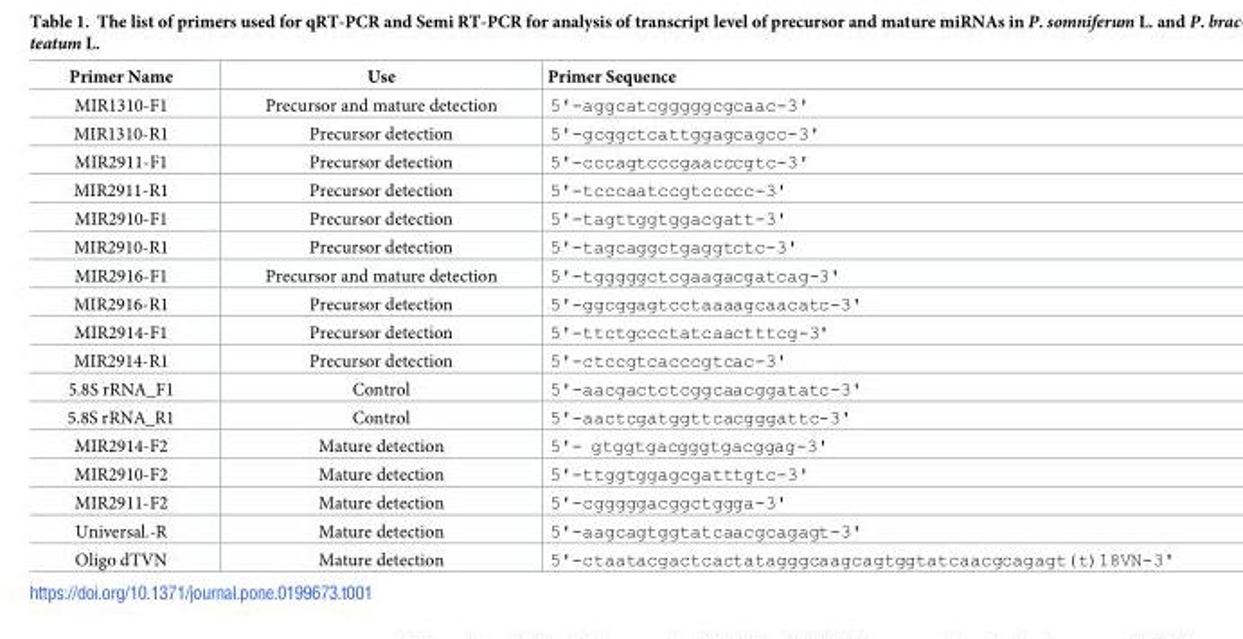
<table><thead><tr><td>Primer Name</td><td>Use</td><td>Primer Sequence</td></tr></thead><tbody><tr><td>MIR1310-F1</td><td>Precursor and mature detection</td><td>5&#x27;-aggcatcgggggcgcaac-3&#x27;</td></tr><tr><td>MIR1310-R1</td><td>Precursor detection</td><td>5&#x27;-gcggctcattggagcagcc-3&#x27;</td></tr><tr><td>MIR2911-F1</td><td>Precursor detection</td><td>5&#x27;-cccagtcccgaacccgtc-3&#x27;</td></tr><tr><td>MIR2911-R1</td><td>Precursor detection</td><td>5&#x27;-tcccaatccgtccccc-3&#x27;</td></tr><tr><td>MIR2910-F1</td><td>Precursor detection</td><td>5&#x27;-tagttggtggacgatt-3&#x27;</td></tr><tr><td>MIR2910-R1</td><td>Precursor detection</td><td>5&#x27;-tagcaggctgaggtctc-3&#x27;</td></tr><tr><td>MIR2916-F1</td><td>Precursor and mature detection</td><td>5&#x27;-tgggggctcgaagacgatcag-3&#x27;</td></tr><tr><td>MIR2916-R1</td><td>Precursor detection</td><td>5&#x27;-ggcggagtcctaaaagcaacatc-3&#x27;</td></tr><tr><td>MIR2914-F1</td><td>Precursor detection</td><td>5&#x27;-ttctgccctatcaactttcg-3&#x27;</td></tr><tr><td>MIR2914-R1</td><td>Precursor detection</td><td>5&#x27;-ctccgtcacccgtcac-3&#x27;</td></tr><tr><td>5.8S rRNA_F1</td><td>Control</td><td>5&#x27;-aacgactctcggcaacggatatc-3&#x27;</td></tr><tr><td>5.8S rRNA_R1</td><td>Control</td><td>5&#x27;-aactcgatggttcacgggattc-3&#x27;</td></tr><tr><td>MIR2914-F2</td><td>Mature detection</td><td>5&#x27;- gtggtgacgggtgacggag-3&#x27;</td></tr><tr><td>MIR2910-F2</td><td>Mature detection</td><td>5&#x27;-ttggtggagcgatttgtc-3&#x27;</td></tr><tr><td>MIR2911-F2</td><td>Mature detection</td><td>5&#x27;-cgggggacggctggga-3&#x27;</td></tr><tr><td>Universal.-R</td><td>Mature detection</td><td>5&#x27;-aagcagtggtatcaacgcagagt-3&#x27;</td></tr><tr><td>Oligo dTVN</td><td>Mature detection</td><td>5&#x27;-ctaatacgactcactatagggcaagcagtggtatcaacgcagagt(t)18VN-3&#x27;</td></tr></tbody></table>